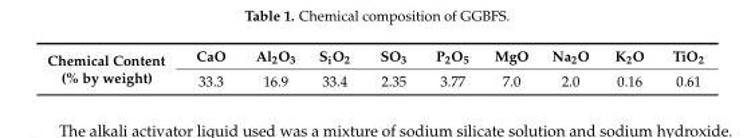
<table><tbody><tr><td rowspan="2">Chemical Content (% by weight)</td><td>CaO</td><td>Al<sub>2</sub>O<sub>3</sub></td><td>S<sub>i</sub>O<sub>2</sub></td><td>SO<sub>3</sub></td><td>P<sub>2</sub>O<sub>5</sub></td><td>MgO</td><td>Na<sub>2</sub>O</td><td>K<sub>2</sub>O</td><td>TiO<sub>2</sub></td></tr><tr><td>33.3</td><td>16.9</td><td>33.4</td><td>2.35</td><td>3.77</td><td>7.0</td><td>2.0</td><td>0.16</td><td>0.61</td></tr></tbody></table>